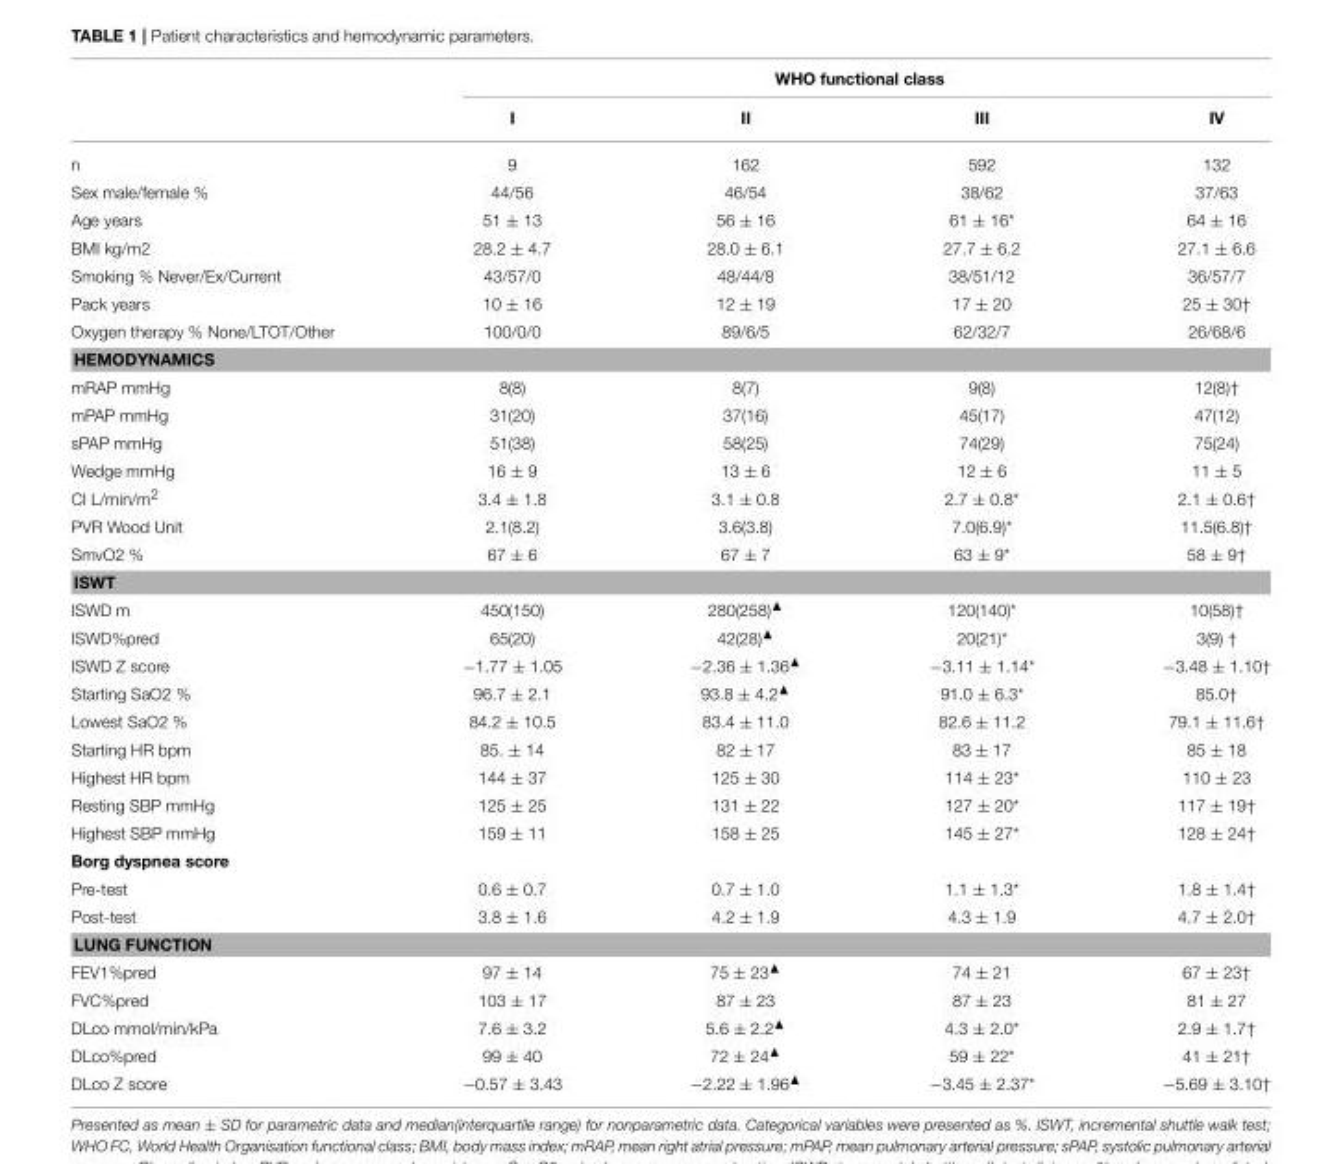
<table><thead><tr><td rowspan="2"></td><td colspan="4">WHO functional class</td></tr><tr><td>I</td><td>II</td><td>III</td><td>IV</td></tr></thead><tbody><tr><td>n</td><td>9</td><td>162</td><td>592</td><td>132</td></tr><tr><td>Sex male/female %</td><td>44/56</td><td>46/54</td><td>38/62</td><td>37/63</td></tr><tr><td>Age years</td><td>51 ± 13</td><td>56 ± 16</td><td>61 ± 16*</td><td>64 ± 16</td></tr><tr><td>BMI kg/m2</td><td>28.2 ± 4.7</td><td>28.0 ± 6.1</td><td>27.7 ± 6.2</td><td>27.1 ± 6.6</td></tr><tr><td>Smoking % Never/Ex/Current</td><td>43/57/0</td><td>48/44/8</td><td>38/51/12</td><td>36/57/7</td></tr><tr><td>Pack years</td><td>10 ± 16</td><td>12 ± 19</td><td>17 ± 20</td><td>25 ± 30<sup>†</sup></td></tr><tr><td>Oxygen therapy % None/LTOT/Other</td><td>100/0/0</td><td>89/6/5</td><td>62/32/7</td><td>26/68/6</td></tr><tr><td colspan="5">HEMODYNAMICS</td></tr><tr><td>mRAP mmHg</td><td>8(8)</td><td>8(7)</td><td>9(8)</td><td>12(8)<sup>†</sup></td></tr><tr><td>mPAP mmHg</td><td>31(20)</td><td>37(16)</td><td>45(17)</td><td>47(12)</td></tr><tr><td>sPAP mmHg</td><td>51(38)</td><td>58(25)</td><td>74(29)</td><td>75(24)</td></tr><tr><td>Wedge mmHg</td><td>16 ± 9</td><td>13 ± 6</td><td>12 ± 6</td><td>11 ± 5</td></tr><tr><td>CI L/min/m<sup>2</sup></td><td>3.4 ± 1.8</td><td>3.1 ± 0.8</td><td>2.7 ± 0.8*</td><td>2.1 ± 0.6<sup>†</sup></td></tr><tr><td>PVR Wood Unit</td><td>2.1(8.2)</td><td>3.6(3.8)</td><td>7.0(6.9)*</td><td>11.5(6.8)<sup>†</sup></td></tr><tr><td>SmvO2 %</td><td>67 ± 6</td><td>67 ± 7</td><td>63 ± 9*</td><td>58 ± 9<sup>†</sup></td></tr><tr><td colspan="5">ISWT</td></tr><tr><td>ISWD m</td><td>450(150)</td><td>280(258)▲</td><td>120(140)*</td><td>10(58)<sup>†</sup></td></tr><tr><td>ISWD%pred</td><td>65(20)</td><td>42(28)▲</td><td>20(21)*</td><td>3(9) <sup>†</sup></td></tr><tr><td>ISWD Z score</td><td>−1.77 ± 1.05</td><td>−2.36 ± 1.36▲</td><td>−3.11 ± 1.14*</td><td>−3.48 ± 1.10<sup>†</sup></td></tr><tr><td>Starting SaO2 %</td><td>96.7 ± 2.1</td><td>93.8 ± 4.2▲</td><td>91.0 ± 6.3*</td><td>85.0<sup>†</sup></td></tr><tr><td>Lowest SaO2 %</td><td>84.2 ± 10.5</td><td>83.4 ± 11.0</td><td>82.6 ± 11.2</td><td>79.1 ± 11.6<sup>†</sup></td></tr><tr><td>Starting HR bpm</td><td>85. ± 14</td><td>82 ± 17</td><td>83 ± 17</td><td>85 ± 18</td></tr><tr><td>Highest HR bpm</td><td>144 ± 37</td><td>125 ± 30</td><td>114 ± 23*</td><td>110 ± 23</td></tr><tr><td>Resting SBP mmHg</td><td>125 ± 25</td><td>131 ± 22</td><td>127 ± 20*</td><td>117 ± 19<sup>†</sup></td></tr><tr><td>Highest SBP mmHg</td><td>159 ± 11</td><td>158 ± 25</td><td>145 ± 27*</td><td>128 ± 24<sup>†</sup></td></tr><tr><td colspan="5">Borg dyspnea score</td></tr><tr><td>Pre-test</td><td>0.6 ± 0.7</td><td>0.7 ± 1.0</td><td>1.1 ± 1.3*</td><td>1.8 ± 1.4<sup>†</sup></td></tr><tr><td>Post-test</td><td>3.8 ± 1.6</td><td>4.2 ± 1.9</td><td>4.3 ± 1.9</td><td>4.7 ± 2.0<sup>†</sup></td></tr><tr><td colspan="5">LUNG FUNCTION</td></tr><tr><td>FEV1%pred</td><td>97 ± 14</td><td>75 ± 23▲</td><td>74 ± 21</td><td>67 ± 23<sup>†</sup></td></tr><tr><td>FVC%pred</td><td>103 ± 17</td><td>87 ± 23</td><td>87 ± 23</td><td>81 ± 27</td></tr><tr><td>DLco mmol/min/kPa</td><td>7.6 ± 3.2</td><td>5.6 ± 2.2▲</td><td>4.3 ± 2.0*</td><td>2.9 ± 1.7<sup>†</sup></td></tr><tr><td>DLco%pred</td><td>99 ± 40</td><td>72 ± 24▲</td><td>59 ± 22*</td><td>41 ± 21<sup>†</sup></td></tr><tr><td>DLco Z score</td><td>−0.57 ± 3.43</td><td>−2.22 ± 1.96▲</td><td>−3.45 ± 2.37*</td><td>−5.69 ± 3.10<sup>†</sup></td></tr></tbody></table>